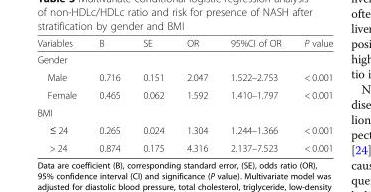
<table><thead><tr><td>Variables</td><td>B</td><td>SE</td><td>OR</td><td>95%CI of OR</td><td>P value</td></tr></thead><tbody><tr><td colspan="6">Gender</td></tr><tr><td>Male</td><td>0.716</td><td>0.151</td><td>2.047</td><td>1.522–2.753</td><td>&lt; 0.001</td></tr><tr><td>Female</td><td>0.465</td><td>0.062</td><td>1.592</td><td>1.410–1.797</td><td>&lt; 0.001</td></tr><tr><td colspan="6">BMI</td></tr><tr><td>≤ 24</td><td>0.265</td><td>0.024</td><td>1.304</td><td>1.244–1.366</td><td>&lt; 0.001</td></tr><tr><td>&gt; 24</td><td>0.874</td><td>0.175</td><td>4.316</td><td>2.137–7.523</td><td>&lt; 0.001</td></tr></tbody></table>